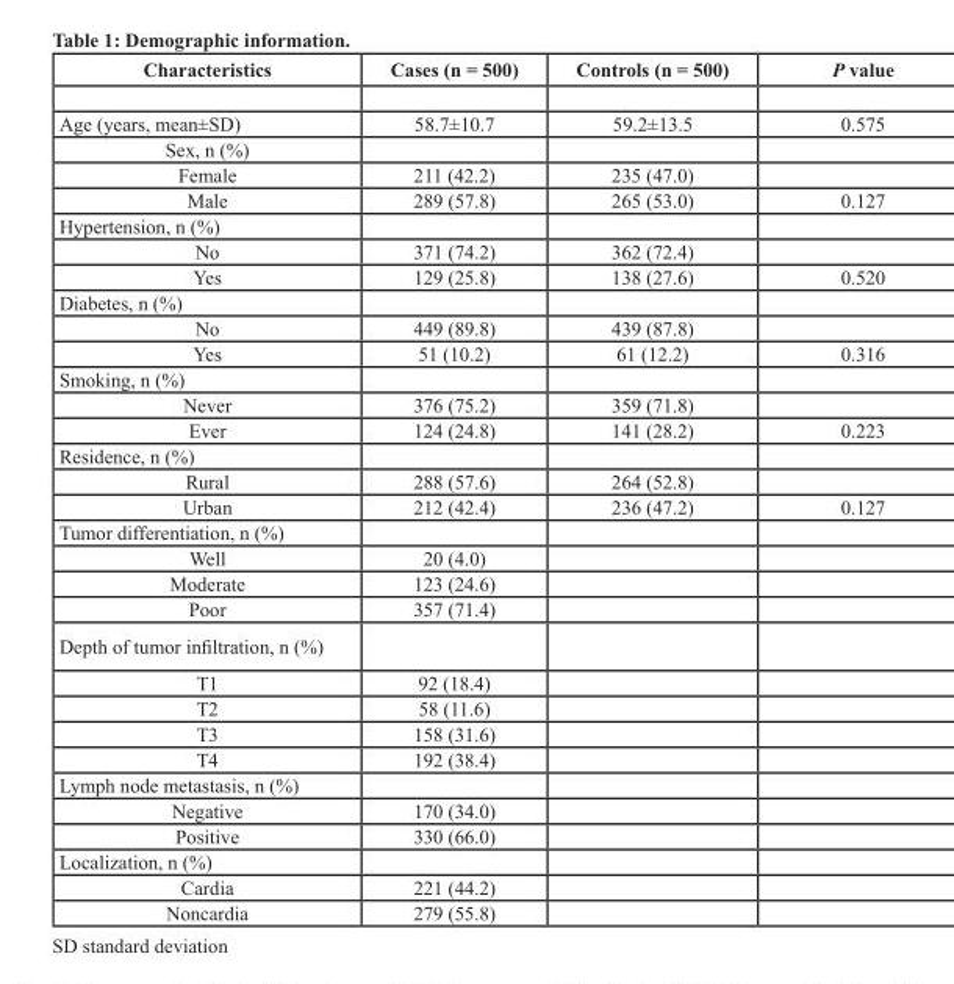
<table><thead><tr><td>Characteristics</td><td>Cases (n = 500)</td><td>Controls (n = 500)</td><td>P value</td></tr></thead><tbody><tr><td>Age (years, mean±SD)</td><td>58.7±10.7</td><td>59.2±13.5</td><td>0.575</td></tr><tr><td colspan="4">Sex, n (%)</td></tr><tr><td>Female</td><td>211 (42.2)</td><td>235 (47.0)</td><td></td></tr><tr><td>Male</td><td>289 (57.8)</td><td>265 (53.0)</td><td>0.127</td></tr><tr><td colspan="4">Hypertension, n (%)</td></tr><tr><td>No</td><td>371 (74.2)</td><td>362 (72.4)</td><td></td></tr><tr><td>Yes</td><td>129 (25.8)</td><td>138 (27.6)</td><td>0.520</td></tr><tr><td colspan="4">Diabetes, n (%)</td></tr><tr><td>No</td><td>449 (89.8)</td><td>439 (87.8)</td><td></td></tr><tr><td>Yes</td><td>51 (10.2)</td><td>61 (12.2)</td><td>0.316</td></tr><tr><td colspan="4">Smoking, n (%)</td></tr><tr><td>Never</td><td>376 (75.2)</td><td>359 (71.8)</td><td></td></tr><tr><td>Ever</td><td>124 (24.8)</td><td>141 (28.2)</td><td>0.223</td></tr><tr><td colspan="4">Residence, n (%)</td></tr><tr><td>Rural</td><td>288 (57.6)</td><td>264 (52.8)</td><td></td></tr><tr><td>Urban</td><td>212 (42.4)</td><td>236 (47.2)</td><td>0.127</td></tr><tr><td colspan="4">Tumor differentiation, n (%)</td></tr><tr><td>Well</td><td>20 (4.0)</td><td></td><td></td></tr><tr><td>Moderate</td><td>123 (24.6)</td><td></td><td></td></tr><tr><td>Poor</td><td>357 (71.4)</td><td></td><td></td></tr><tr><td colspan="4">Depth of tumor infiltration, n (%)</td></tr><tr><td>T1</td><td>92 (18.4)</td><td></td><td></td></tr><tr><td>T2</td><td>58 (11.6)</td><td></td><td></td></tr><tr><td>T3</td><td>158 (31.6)</td><td></td><td></td></tr><tr><td>T4</td><td>192 (38.4)</td><td></td><td></td></tr><tr><td colspan="4">Lymph node metastasis, n (%)</td></tr><tr><td>Negative</td><td>170 (34.0)</td><td></td><td></td></tr><tr><td>Positive</td><td>330 (66.0)</td><td></td><td></td></tr><tr><td colspan="4">Localization, n (%)</td></tr><tr><td>Cardia</td><td>221 (44.2)</td><td></td><td></td></tr><tr><td>Noncardia</td><td>279 (55.8)</td><td></td><td></td></tr></tbody></table>